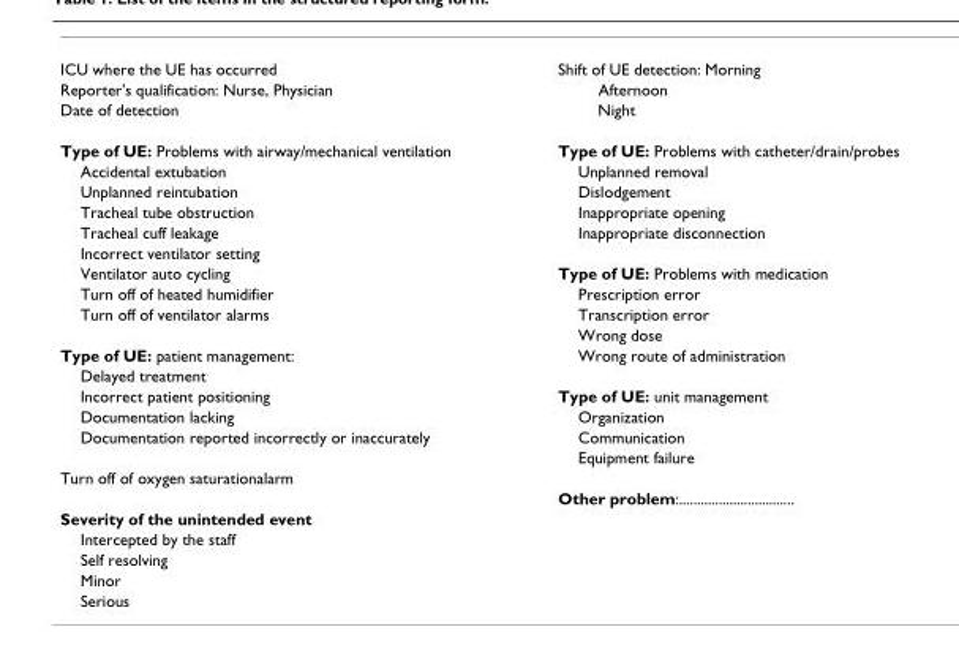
<table><tbody><tr><td>ICU where the UE has occurred</td><td>Shift of UE detection: Morning</td></tr><tr><td>Reporter&#x27;s qualification: Nurse, Physician</td><td>Afternoon</td></tr><tr><td>Date of detection</td><td>Night</td></tr><tr><td>Type of UE: Problems with airway/mechanical ventilation</td><td>Type of UE: Problems with catheter/drain/probes</td></tr><tr><td>Accidental extubation</td><td>Unplanned removal</td></tr><tr><td>Unplanned reintubation</td><td>Dislodgement</td></tr><tr><td>Tracheal tube obstruction</td><td>Inappropriate opening</td></tr><tr><td>Tracheal cuff leakage</td><td>Inappropriate disconnection</td></tr><tr><td colspan="2">Incorrect ventilator setting</td></tr><tr><td>Ventilator auto cycling</td><td>Type of UE: Problems with medication</td></tr><tr><td>Turn off of heated humidifier</td><td>Prescription error</td></tr><tr><td rowspan="2">Turn off of ventilator alarms</td><td>Transcription error</td></tr><tr><td>Wrong dose</td></tr><tr><td>Type of UE: patient management:</td><td>Wrong route of administration</td></tr><tr><td colspan="2">Delayed treatment</td></tr><tr><td>Incorrect patient positioning</td><td>Type of UE: unit management</td></tr><tr><td>Documentation lacking</td><td>Organization</td></tr><tr><td rowspan="2">Documentation reported incorrectly or inaccurately</td><td>Communication</td></tr><tr><td>Equipment failure</td></tr><tr><td colspan="2">Turn off of oxygen saturationalarm</td></tr><tr><td></td><td>Other problem:................................</td></tr><tr><td colspan="2">Severity of the unintended event</td></tr><tr><td colspan="2">Intercepted by the staff</td></tr><tr><td colspan="2">Self resolving</td></tr><tr><td colspan="2">Minor</td></tr><tr><td>Serious</td><td></td></tr></tbody></table>